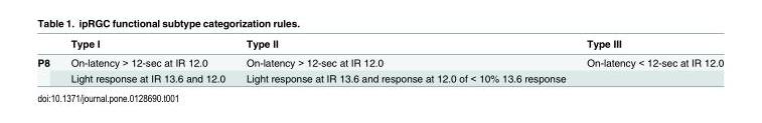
<table><thead><tr><td></td><td>Type I</td><td>Type II</td><td>Type III</td></tr></thead><tbody><tr><td rowspan="2">P8</td><td>On-latency &gt; 12-sec at IR 12.0</td><td>On-latency &gt; 12-sec at IR 12.0</td><td>On-latency &lt; 12-sec at IR 12.0</td></tr><tr><td>Light response at IR 13.6 and 12.0</td><td>Light response at IR 13.6 and response at 12.0 of &lt; 10% 13.6 response</td><td></td></tr></tbody></table>